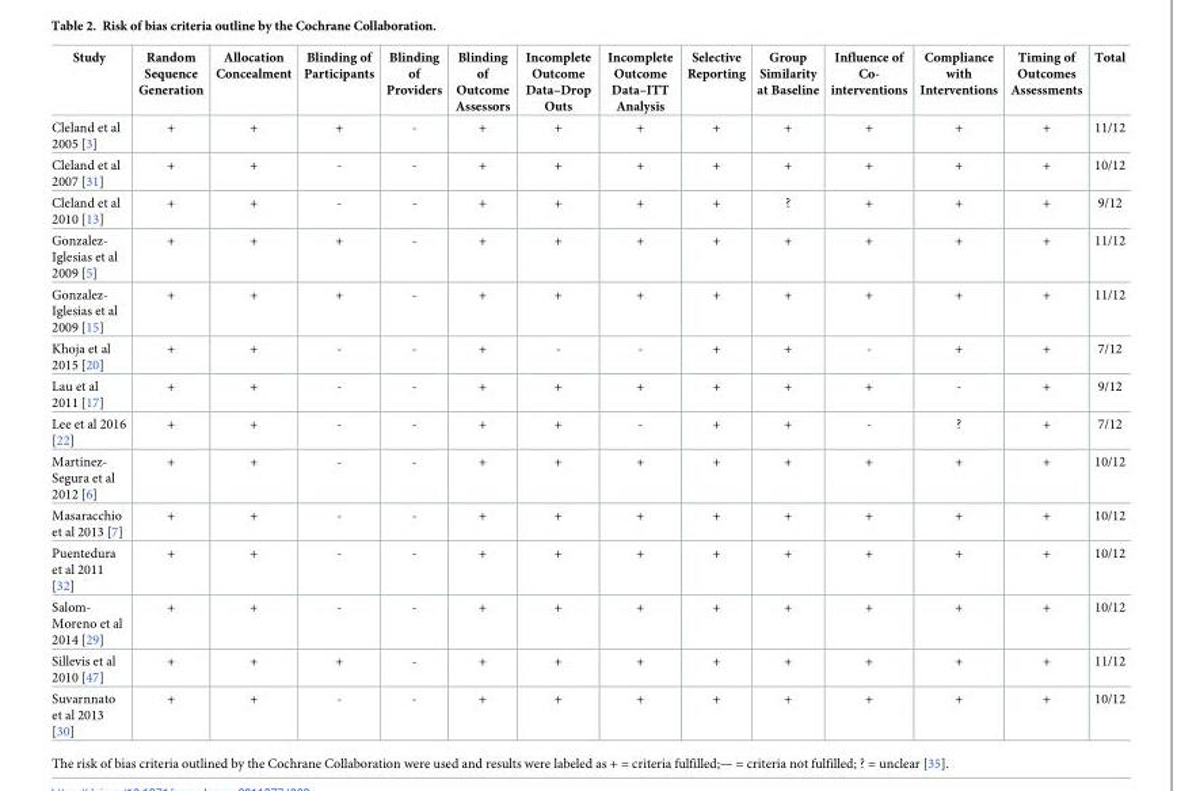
<table><thead><tr><td>Study</td><td>Random Sequence Generation</td><td>Allocation Concealment</td><td>Blinding of Participants</td><td>Blinding of Providers</td><td>Blinding of Outcome Assessors</td><td>Incomplete Outcome Data–Drop Outs</td><td>Incomplete Outcome Data–ITT Analysis</td><td>Selective Reporting</td><td>Group Similarity at Baseline</td><td>Influence of Co- interventions</td><td>Compliance with Interventions</td><td>Timing of Outcomes Assessments</td><td>Total</td></tr></thead><tbody><tr><td>Cleland et al 2005 [3]</td><td>+</td><td>+</td><td>+</td><td>-</td><td>+</td><td>+</td><td>+</td><td>+</td><td>+</td><td>+</td><td>+</td><td>+</td><td>11/12</td></tr><tr><td>Cleland et al 2007 [31]</td><td>+</td><td>+</td><td>-</td><td>-</td><td>+</td><td>+</td><td>+</td><td>+</td><td>+</td><td>+</td><td>+</td><td>+</td><td>10/12</td></tr><tr><td>Cleland et al 2010 [13]</td><td>+</td><td>+</td><td>-</td><td>-</td><td>+</td><td>+</td><td>+</td><td>+</td><td>?</td><td>+</td><td>+</td><td>+</td><td>9/12</td></tr><tr><td>Gonzalez- Iglesias et al 2009 [5]</td><td>+</td><td>+</td><td>+</td><td>-</td><td>+</td><td>+</td><td>+</td><td>+</td><td>+</td><td>+</td><td>+</td><td>+</td><td>11/12</td></tr><tr><td>Gonzalez- Iglesias et al 2009 [15]</td><td>+</td><td>+</td><td>+</td><td>-</td><td>+</td><td>+</td><td>+</td><td>+</td><td>+</td><td>+</td><td>+</td><td>+</td><td>11/12</td></tr><tr><td>Khoja et al 2015 [20]</td><td>+</td><td>+</td><td>-</td><td>-</td><td>+</td><td>-</td><td>-</td><td>+</td><td>+</td><td>-</td><td>+</td><td>+</td><td>7/12</td></tr><tr><td>Lau et al 2011 [17]</td><td>+</td><td>+</td><td>-</td><td>-</td><td>+</td><td>+</td><td>+</td><td>+</td><td>+</td><td>+</td><td>-</td><td>+</td><td>9/12</td></tr><tr><td>Lee et al 2016 [22]</td><td>+</td><td>+</td><td>-</td><td>-</td><td>+</td><td>+</td><td>-</td><td>+</td><td>+</td><td>-</td><td>?</td><td>+</td><td>7/12</td></tr><tr><td>Martinez- Segura et al 2012 [6]</td><td>+</td><td>+</td><td>-</td><td>-</td><td>+</td><td>+</td><td>+</td><td>+</td><td>+</td><td>+</td><td>+</td><td>+</td><td>10/12</td></tr><tr><td>Masaracchio et al 2013 [7]</td><td>+</td><td>+</td><td>-</td><td>-</td><td>+</td><td>+</td><td>+</td><td>+</td><td>+</td><td>+</td><td>+</td><td>+</td><td>10/12</td></tr><tr><td>Puentedura et al 2011 [32]</td><td>+</td><td>+</td><td>-</td><td>-</td><td>+</td><td>+</td><td>+</td><td>+</td><td>+</td><td>+</td><td>+</td><td>+</td><td>10/12</td></tr><tr><td>Salom- Moreno et al 2014 [29]</td><td>+</td><td>+</td><td>-</td><td>-</td><td>+</td><td>+</td><td>+</td><td>+</td><td>+</td><td>+</td><td>+</td><td>+</td><td>10/12</td></tr><tr><td>Sillevis et al 2010 [47]</td><td>+</td><td>+</td><td>+</td><td>-</td><td>+</td><td>+</td><td>+</td><td>+</td><td>+</td><td>+</td><td>+</td><td>+</td><td>11/12</td></tr><tr><td>Suvarnnato et al 2013 [30]</td><td>+</td><td>+</td><td>-</td><td>-</td><td>+</td><td>+</td><td>+</td><td>+</td><td>+</td><td>+</td><td>+</td><td>+</td><td>10/12</td></tr></tbody></table>